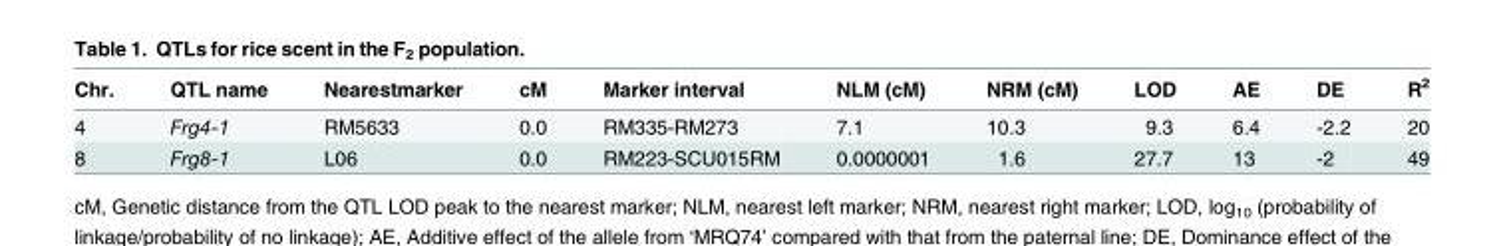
<table><thead><tr><td>Chr.</td><td>QTL name</td><td>Nearestmarker</td><td>cM</td><td>Marker interval</td><td>NLM (cM)</td><td>NRM (cM)</td><td>LOD</td><td>AE</td><td>DE</td><td>R2</td></tr></thead><tbody><tr><td>4</td><td>Frg4-1</td><td>RM5633</td><td>0.0</td><td>RM335-RM273</td><td>7.1</td><td>10.3</td><td>9.3</td><td>6.4</td><td>-2.2</td><td>20</td></tr><tr><td>8</td><td>Frg8-1</td><td>L06</td><td>0.0</td><td>RM223-SCU015RM</td><td>0.0000001</td><td>1.6</td><td>27.7</td><td>13</td><td>-2</td><td>49</td></tr></tbody></table>